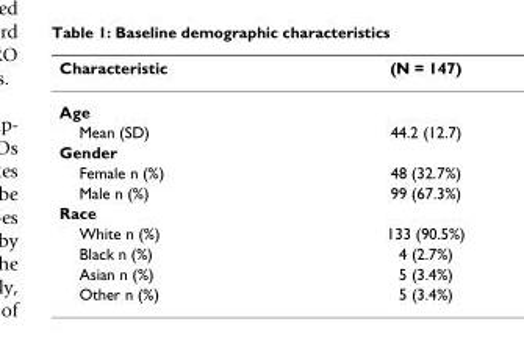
<table><thead><tr><td>Characteristic</td><td>(N = 147)</td></tr></thead><tbody><tr><td colspan="2">Age</td></tr><tr><td>Mean (SD)</td><td>44.2 (12.7)</td></tr><tr><td colspan="2">Gender</td></tr><tr><td>Female n (%)</td><td>48 (32.7%)</td></tr><tr><td>Male n (%)</td><td>99 (67.3%)</td></tr><tr><td colspan="2">Race</td></tr><tr><td>White n (%)</td><td>133 (90.5%)</td></tr><tr><td>Black n (%)</td><td>4 (2.7%)</td></tr><tr><td>Asian n (%)</td><td>5 (3.4%)</td></tr><tr><td>Other n (%)</td><td>5 (3.4%)</td></tr></tbody></table>